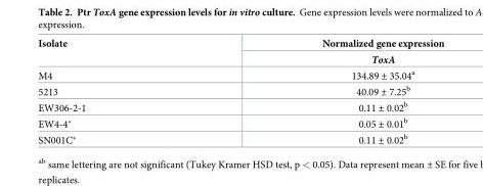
<table><thead><tr><td rowspan="2">Isolate</td><td rowspan="2">Normalized gene expression ToxA</td></tr><tr></tr></thead><tbody><tr><td>M4</td><td>134.89 ± 35.04<sup>a</sup></td></tr><tr><td>5213</td><td>40.09 ± 7.25<sup>b</sup></td></tr><tr><td>EW306-2-1</td><td>0.11 ± 0.02<sup>b</sup></td></tr><tr><td>EW4-4*</td><td>0.05 ± 0.01<sup>b</sup></td></tr><tr><td>SN001C*</td><td>0.11 ± 0.02<sup>b</sup></td></tr></tbody></table>